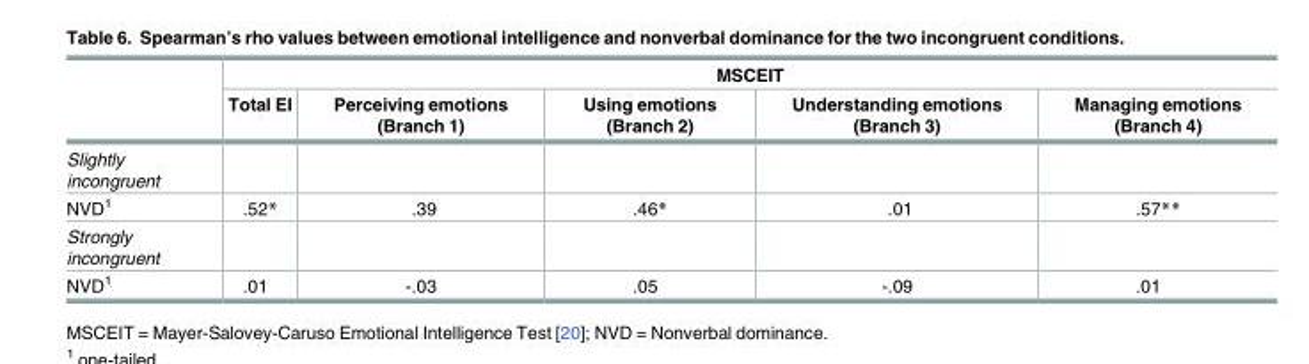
<table><thead><tr><td rowspan="2"></td><td colspan="5">MSCEIT</td></tr><tr><td>Total EI</td><td>Perceiving emotions (Branch 1)</td><td>Using emotions (Branch 2)</td><td>Understanding emotions (Branch 3)</td><td>Managing emotions (Branch 4)</td></tr></thead><tbody><tr><td colspan="6">Slightly incongruent</td></tr><tr><td>NVD<sup>1</sup></td><td>.52*</td><td>.39</td><td>.46*</td><td>.01</td><td>.57**</td></tr><tr><td colspan="6">Strongly incongruent</td></tr><tr><td>NVD<sup>1</sup></td><td>.01</td><td>-.03</td><td>.05</td><td>-.09</td><td>.01</td></tr></tbody></table>